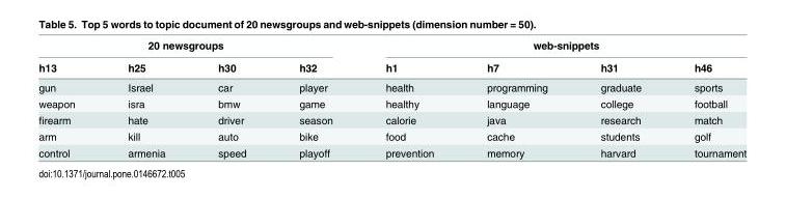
<table><thead><tr><td colspan="4">20 newsgroups</td><td colspan="4">web-snippets</td></tr><tr><td>h13</td><td>h25</td><td>h30</td><td>h32</td><td>h1</td><td>h7</td><td>h31</td><td>h46</td></tr></thead><tbody><tr><td>gun</td><td>Israel</td><td>car</td><td>player</td><td>health</td><td>programming</td><td>graduate</td><td>sports</td></tr><tr><td>weapon</td><td>isra</td><td>bmw</td><td>game</td><td>healthy</td><td>language</td><td>college</td><td>football</td></tr><tr><td>firearm</td><td>hate</td><td>driver</td><td>season</td><td>calorie</td><td>java</td><td>research</td><td>match</td></tr><tr><td>arm</td><td>kill</td><td>auto</td><td>bike</td><td>food</td><td>cache</td><td>students</td><td>golf</td></tr><tr><td>control</td><td>armenia</td><td>speed</td><td>playoff</td><td>prevention</td><td>memory</td><td>harvard</td><td>tournament</td></tr></tbody></table>